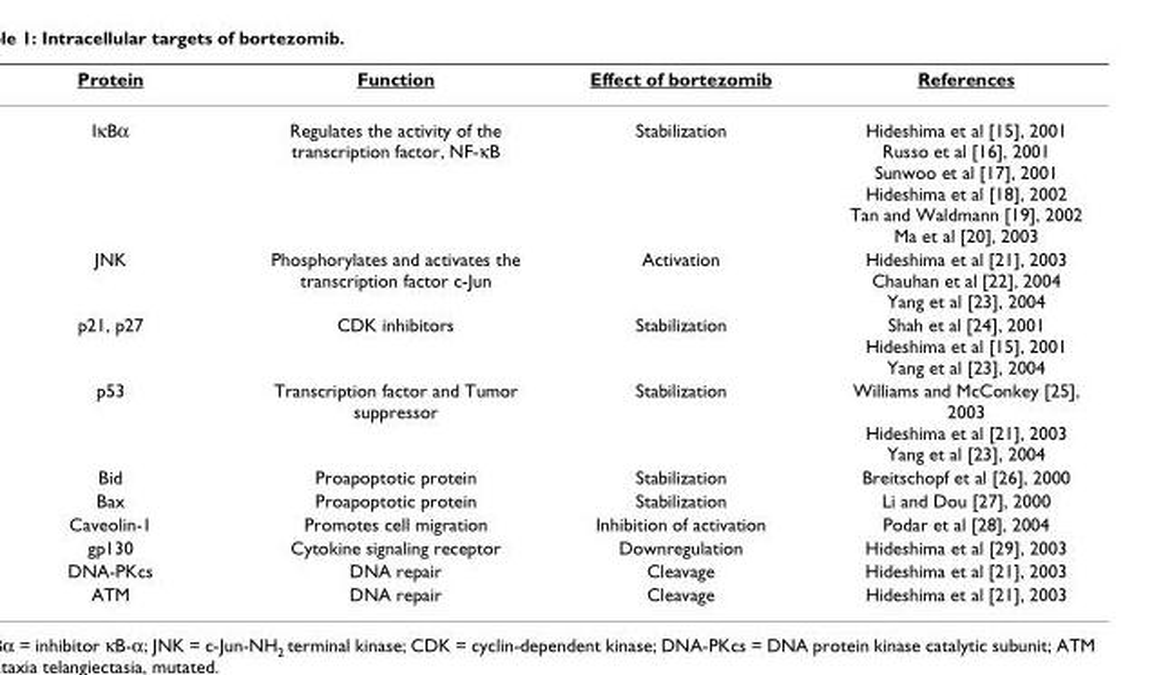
<table><thead><tr><td>Protein</td><td>Function</td><td>Effect of bortezomib</td><td>References</td></tr></thead><tbody><tr><td>IκBα</td><td>Regulates the activity of the transcription factor, NF-κB</td><td>Stabilization</td><td>Hideshima et al [15], 2001 Russo et al [16], 2001 Sunwoo et al [17], 2001 Hideshima et al [18], 2002 Tan and Waldmann [19], 2002 Ma et al [20], 2003</td></tr><tr><td>JNK</td><td>Phosphorylates and activates the transcription factor c-Jun</td><td>Activation</td><td>Hideshima et al [21], 2003 Chauhan et al [22], 2004 Yang et al [23], 2004</td></tr><tr><td>p21, p27</td><td>CDK inhibitors</td><td>Stabilization</td><td>Shah et al [24], 2001 Hideshima et al [15], 2001 Yang et al [23], 2004</td></tr><tr><td>p53</td><td>Transcription factor and Tumor suppressor</td><td>Stabilization</td><td>Williams and McConkey [25], 2003 Hideshima et al [21], 2003 Yang et al [23], 2004</td></tr><tr><td>Bid</td><td>Proapoptotic protein</td><td>Stabilization</td><td>Breitschopf et al [26], 2000</td></tr><tr><td>Bax</td><td>Proapoptotic protein</td><td>Stabilization</td><td>Li and Dou [27], 2000</td></tr><tr><td>Caveolin-1</td><td>Promotes cell migration</td><td>Inhibition of activation</td><td>Podar et al [28], 2004</td></tr><tr><td>gp130</td><td>Cytokine signaling receptor</td><td>Downregulation</td><td>Hideshima et al [29], 2003</td></tr><tr><td>DNA-PKcs</td><td>DNA repair</td><td>Cleavage</td><td>Hideshima et al [21], 2003</td></tr><tr><td>ATM</td><td>DNA repair</td><td>Cleavage</td><td>Hideshima et al [21], 2003</td></tr></tbody></table>